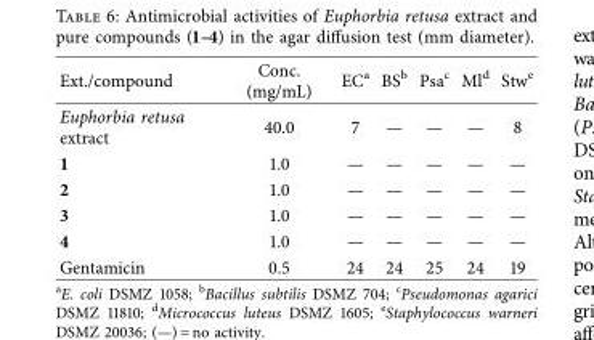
<table><thead><tr><td>Ext./compound</td><td>Conc. (mg/mL)</td><td>EC<sup>a</sup></td><td>BS<sup>b</sup></td><td>Psa<sup>c</sup></td><td>Ml<sup>d</sup></td><td>Stw<sup>e</sup></td></tr></thead><tbody><tr><td>Euphorbia retusa extract</td><td>40.0</td><td>7</td><td>—</td><td>—</td><td>—</td><td>8</td></tr><tr><td>1</td><td>1.0</td><td>—</td><td>—</td><td>—</td><td>—</td><td>—</td></tr><tr><td>2</td><td>1.0</td><td>—</td><td>—</td><td>—</td><td>—</td><td>—</td></tr><tr><td>3</td><td>1.0</td><td>—</td><td>—</td><td>—</td><td>—</td><td>—</td></tr><tr><td>4</td><td>1.0</td><td>—</td><td>—</td><td>—</td><td>—</td><td>—</td></tr><tr><td>Gentamicin</td><td>0.5</td><td>24</td><td>24</td><td>25</td><td>24</td><td>19</td></tr></tbody></table>